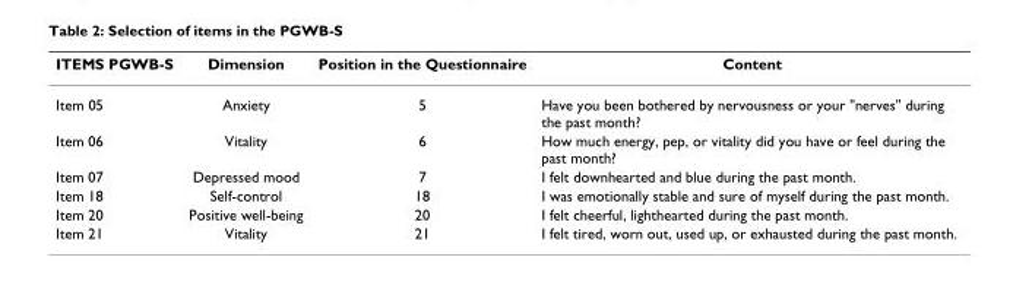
<table><thead><tr><td>ITEMS PGWB-S</td><td>Dimension</td><td>Position in the Questionnaire</td><td>Content</td></tr></thead><tbody><tr><td>Item 05</td><td>Anxiety</td><td>5</td><td>Have you been bothered by nervousness or your &quot;nerves&quot; during the past month?</td></tr><tr><td>Item 06</td><td>Vitality</td><td>6</td><td>How much energy, pep, or vitality did you have or feel during the past month?</td></tr><tr><td>Item 07</td><td>Depressed mood</td><td>7</td><td>I felt downhearted and blue during the past month.</td></tr><tr><td>Item 18</td><td>Self-control</td><td>18</td><td>I was emotionally stable and sure of myself during the past month.</td></tr><tr><td>Item 20</td><td>Positive well-being</td><td>20</td><td>I felt cheerful, lighthearted during the past month.</td></tr><tr><td>Item 21</td><td>Vitality</td><td>21</td><td>I felt tired, worn out, used up, or exhausted during the past month.</td></tr></tbody></table>